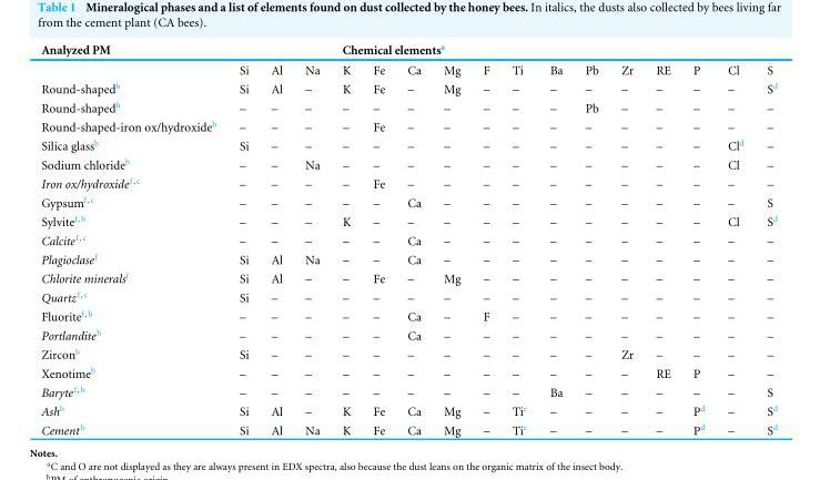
<table><thead><tr><td rowspan="2">Analyzed PM</td><td colspan="16">Chemical elements<sup>a</sup></td></tr><tr><td>Si</td><td>Al</td><td>Na</td><td>K</td><td>Fe</td><td>Ca</td><td>Mg</td><td>F</td><td>Ti</td><td>Ba</td><td>Pb</td><td>Zr</td><td>RE</td><td>P</td><td>Cl</td><td>S</td></tr></thead><tbody><tr><td>Round-shaped<sup>b</sup></td><td>Si</td><td>Al</td><td>–</td><td>K</td><td>Fe</td><td>–</td><td>Mg</td><td>–</td><td>–</td><td>–</td><td>–</td><td>–</td><td>–</td><td>–</td><td>–</td><td>S<sup>d</sup></td></tr><tr><td>Round-shaped<sup>b</sup></td><td>–</td><td>–</td><td>–</td><td>–</td><td>–</td><td>–</td><td>–</td><td>–</td><td>–</td><td>–</td><td>Pb</td><td>–</td><td>–</td><td>–</td><td>–</td><td>–</td></tr><tr><td>Round-shaped-iron ox/hydroxide<sup>b</sup></td><td>–</td><td>–</td><td>–</td><td>–</td><td>Fe</td><td>–</td><td>–</td><td>–</td><td>–</td><td>–</td><td>–</td><td>–</td><td>–</td><td>–</td><td>–</td><td>–</td></tr><tr><td>Silica glass<sup>b</sup></td><td>Si</td><td>–</td><td>–</td><td>–</td><td>–</td><td>–</td><td>–</td><td>–</td><td>–</td><td>–</td><td>–</td><td>–</td><td>–</td><td>–</td><td>Cl<sup>d</sup></td><td>–</td></tr><tr><td>Sodium chloride<sup>b</sup></td><td>–</td><td>–</td><td>Na</td><td>–</td><td>–</td><td>–</td><td>–</td><td>–</td><td>–</td><td>–</td><td>–</td><td>–</td><td>–</td><td>–</td><td>Cl</td><td>–</td></tr><tr><td>Iron ox/hydroxide<sup>f,c</sup></td><td>–</td><td>–</td><td>–</td><td>–</td><td>Fe</td><td>–</td><td>–</td><td>–</td><td>–</td><td>–</td><td>–</td><td>–</td><td>–</td><td>–</td><td>–</td><td>–</td></tr><tr><td>Gypsum<sup>f,c</sup></td><td>–</td><td>–</td><td>–</td><td>–</td><td>–</td><td>Ca</td><td>–</td><td>–</td><td>–</td><td>–</td><td>–</td><td>–</td><td>–</td><td>–</td><td>–</td><td>S</td></tr><tr><td>Sylvite<sup>f,b</sup></td><td>–</td><td>–</td><td>–</td><td>K</td><td>–</td><td>–</td><td>–</td><td>–</td><td>–</td><td>–</td><td>–</td><td>–</td><td>–</td><td>–</td><td>Cl</td><td>S<sup>d</sup></td></tr><tr><td>Calcite<sup>f,c</sup></td><td>–</td><td>–</td><td>–</td><td>–</td><td>–</td><td>Ca</td><td>–</td><td>–</td><td>–</td><td>–</td><td>–</td><td>–</td><td>–</td><td>–</td><td>–</td><td>–</td></tr><tr><td>Plagioclase<sup>f</sup></td><td>Si</td><td>Al</td><td>Na</td><td>–</td><td>–</td><td>Ca</td><td>–</td><td>–</td><td>–</td><td>–</td><td>–</td><td>–</td><td>–</td><td>–</td><td>–</td><td>–</td></tr><tr><td>Chlorite minerals<sup>f</sup></td><td>Si</td><td>Al</td><td>–</td><td>–</td><td>Fe</td><td>–</td><td>Mg</td><td>–</td><td>–</td><td>–</td><td>–</td><td>–</td><td>–</td><td>–</td><td>–</td><td>–</td></tr><tr><td>Quartz<sup>f,c</sup></td><td>Si</td><td>–</td><td>–</td><td>–</td><td>–</td><td>–</td><td>–</td><td>–</td><td>–</td><td>–</td><td>–</td><td>–</td><td>–</td><td>–</td><td>–</td><td>–</td></tr><tr><td>Fluorite<sup>f,b</sup></td><td>–</td><td>–</td><td>–</td><td>–</td><td>–</td><td>Ca</td><td>–</td><td>F</td><td>–</td><td>–</td><td>–</td><td>–</td><td>–</td><td>–</td><td>–</td><td>–</td></tr><tr><td>Portlandite<sup>b</sup></td><td>–</td><td>–</td><td>–</td><td>–</td><td>–</td><td>Ca</td><td>–</td><td>–</td><td>–</td><td>–</td><td>–</td><td>–</td><td>–</td><td>–</td><td>–</td><td>–</td></tr><tr><td>Zircon<sup>b</sup></td><td>Si</td><td>–</td><td>–</td><td>–</td><td>–</td><td>–</td><td>–</td><td>–</td><td>–</td><td>–</td><td>–</td><td>Zr</td><td>–</td><td>–</td><td>–</td><td>–</td></tr><tr><td>Xenotime<sup>b</sup></td><td>–</td><td>–</td><td>–</td><td>–</td><td>–</td><td>–</td><td>–</td><td>–</td><td>–</td><td>–</td><td>–</td><td>–</td><td>RE</td><td>P</td><td>–</td><td>–</td></tr><tr><td>Baryte<sup>f,b</sup></td><td>–</td><td>–</td><td>–</td><td>–</td><td>–</td><td>–</td><td>–</td><td>–</td><td>–</td><td>Ba</td><td>–</td><td>–</td><td>–</td><td>–</td><td>–</td><td>S</td></tr><tr><td>Ash<sup>b</sup></td><td>Si</td><td>Al</td><td>–</td><td>K</td><td>Fe</td><td>Ca</td><td>Mg</td><td>–</td><td>Ti<sup>e</sup></td><td>–</td><td>–</td><td>–</td><td>–</td><td>P<sup>d</sup></td><td>–</td><td>S<sup>d</sup></td></tr><tr><td>Cement <sup>b</sup></td><td>Si</td><td>Al</td><td>Na</td><td>K</td><td>Fe</td><td>Ca</td><td>Mg</td><td>–</td><td>Ti<sup>e</sup></td><td>–</td><td>–</td><td>–</td><td>–</td><td>P<sup>d</sup></td><td>–</td><td>S<sup>d</sup></td></tr></tbody></table>